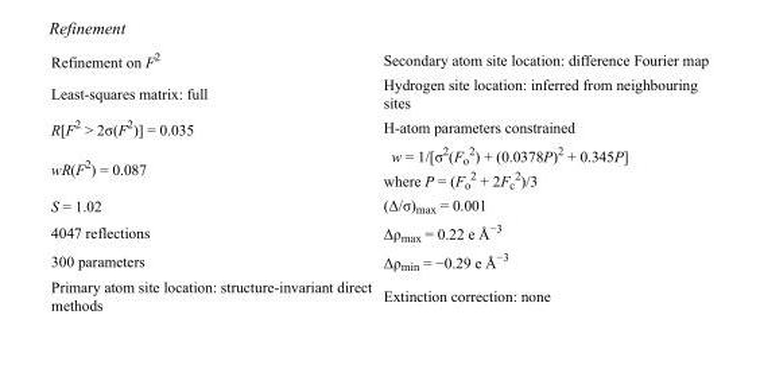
<table><tbody><tr><td>Refinement on F<sup>2</sup></td><td>Secondary atom site location: difference Fourier map</td></tr><tr><td>Least-squares matrix: full</td><td>Hydrogen site location: inferred from neighbouring sites</td></tr><tr><td>R[F<sup>2</sup> &gt; 2σ(F<sup>2</sup>)] = 0.035</td><td>H-atom parameters constrained</td></tr><tr><td>wR(F<sup>2</sup>) = 0.087</td><td>w = 1/[σ<sup>2</sup>(F<sub>o</sub> <sup>2</sup>) + (0.0378P)<sup>2</sup> + 0.345P] where P = (F<sub>o</sub> <sup>2</sup> + 2F<sub>c</sub> <sup>2</sup>)/3</td></tr><tr><td>S = 1.02</td><td>(Δ/σ)<sub>max</sub> = 0.001</td></tr><tr><td>4047 reflections</td><td>Δρ<sub>max</sub> = 0.22 e Å<sup>−3</sup></td></tr><tr><td>300 parameters</td><td>Δρ<sub>min</sub> = −0.29 e Å<sup>−3</sup></td></tr><tr><td>Primary atom site location: structure-invariant direct methods</td><td>Extinction correction: none</td></tr></tbody></table>